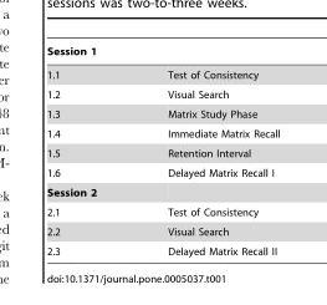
<table><thead><tr><td>Session 1</td><td></td></tr></thead><tbody><tr><td>1.1</td><td>Test of Consistency</td></tr><tr><td>1.2</td><td>Visual Search</td></tr><tr><td>1.3</td><td>Matrix Study Phase</td></tr><tr><td>1.4</td><td>Immediate Matrix Recall</td></tr><tr><td>1.5</td><td>Retention Interval</td></tr><tr><td>1.6</td><td>Delayed Matrix Recall I</td></tr><tr><td colspan="2">Session 2</td></tr><tr><td>2.1</td><td>Test of Consistency</td></tr><tr><td>2.2</td><td>Visual Search</td></tr><tr><td>2.3</td><td>Delayed Matrix Recall II</td></tr></tbody></table>